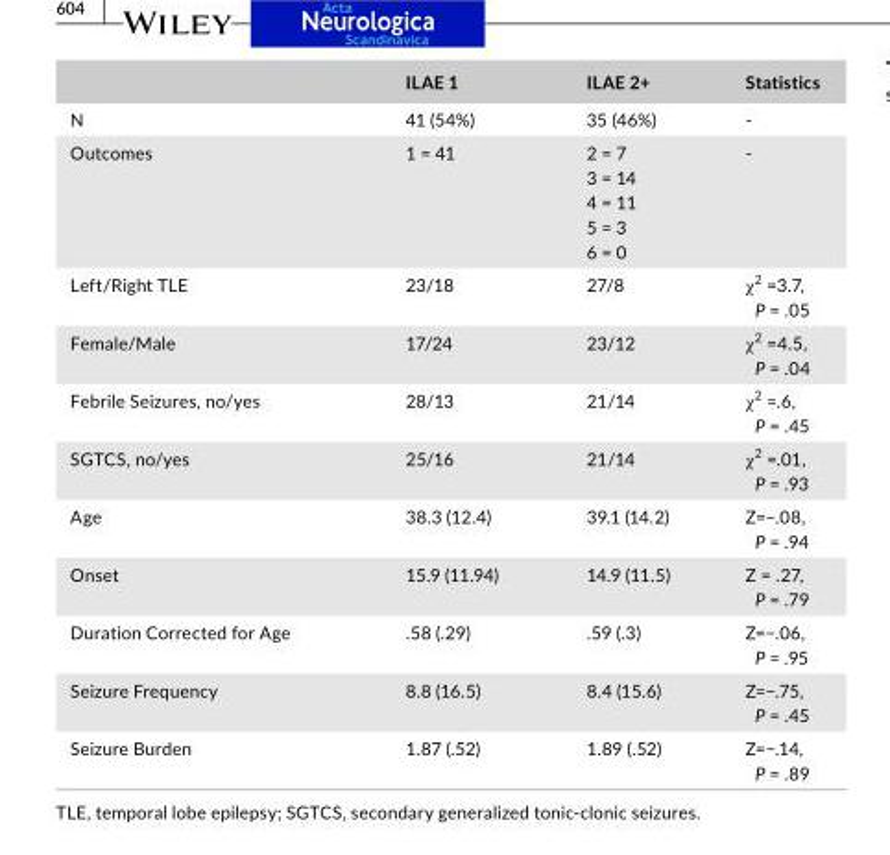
<table><thead><tr><td></td><td>ILAE 1</td><td>ILAE 2+</td><td>Statistics</td></tr></thead><tbody><tr><td>N</td><td>41 (54%)</td><td>35 (46%)</td><td>-</td></tr><tr><td>Outcomes</td><td>1 = 41</td><td>2 = 7 3 = 14 4 = 11 5 = 3 6 = 0</td><td>-</td></tr><tr><td>Left/Right TLE</td><td>23/18</td><td>27/8</td><td>χ<sup>2</sup> =3.7, P = .05</td></tr><tr><td>Female/Male</td><td>17/24</td><td>23/12</td><td>χ<sup>2</sup> =4.5, P = .04</td></tr><tr><td>Febrile Seizures, no/yes</td><td>28/13</td><td>21/14</td><td>χ<sup>2</sup> =.6, P = .45</td></tr><tr><td>SGTCS, no/yes</td><td>25/16</td><td>21/14</td><td>χ<sup>2</sup> =.01, P = .93</td></tr><tr><td>Age</td><td>38.3 (12.4)</td><td>39.1 (14.2)</td><td>Z=−.08, P = .94</td></tr><tr><td>Onset</td><td>15.9 (11.94)</td><td>14.9 (11.5)</td><td>Z = .27, P = .79</td></tr><tr><td>Duration Corrected for Age</td><td>.58 (.29)</td><td>.59 (.3)</td><td>Z=−.06, P = .95</td></tr><tr><td>Seizure Frequency</td><td>8.8 (16.5)</td><td>8.4 (15.6)</td><td>Z=−.75, P = .45</td></tr><tr><td>Seizure Burden</td><td>1.87 (.52)</td><td>1.89 (.52)</td><td>Z=−.14, P = .89</td></tr></tbody></table>